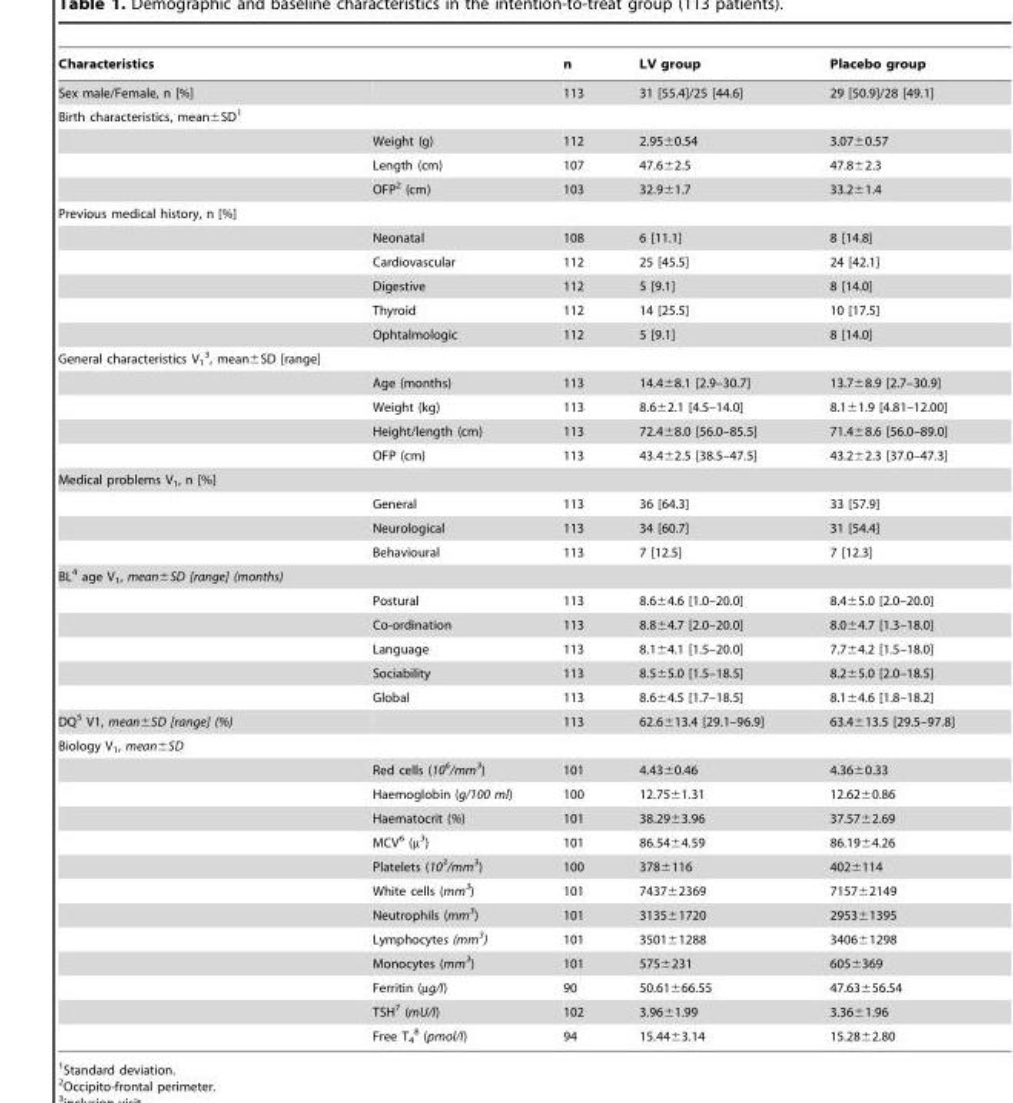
<table><thead><tr><td>Characteristics</td><td></td><td>n</td><td>LV group</td><td>Placebo group</td></tr></thead><tbody><tr><td>Sex male/Female, n [%]</td><td></td><td>113</td><td>31 [55.4]/25 [44.6]</td><td>29 [50.9]/28 [49.1]</td></tr><tr><td colspan="5">Birth characteristics, mean±SD<sup>1</sup></td></tr><tr><td></td><td>Weight (g)</td><td>112</td><td>2.95±0.54</td><td>3.07±0.57</td></tr><tr><td></td><td>Length (cm)</td><td>107</td><td>47.6±2.5</td><td>47.8±2.3</td></tr><tr><td></td><td>OFP<sup>2</sup> (cm)</td><td>103</td><td>32.9±1.7</td><td>33.2±1.4</td></tr><tr><td colspan="5">Previous medical history, n [%]</td></tr><tr><td></td><td>Neonatal</td><td>108</td><td>6 [11.1]</td><td>8 [14.8]</td></tr><tr><td></td><td>Cardiovascular</td><td>112</td><td>25 [45.5]</td><td>24 [42.1]</td></tr><tr><td></td><td>Digestive</td><td>112</td><td>5 [9.1]</td><td>8 [14.0]</td></tr><tr><td></td><td>Thyroid</td><td>112</td><td>14 [25.5]</td><td>10 [17.5]</td></tr><tr><td></td><td>Ophtalmologic</td><td>112</td><td>5 [9.1]</td><td>8 [14.0]</td></tr><tr><td colspan="5">General characteristics V<sub>1</sub> 3, mean±SD [range]</td></tr><tr><td></td><td>Age (months)</td><td>113</td><td>14.4±8.1 [2.9–30.7]</td><td>13.7±8.9 [2.7–30.9]</td></tr><tr><td></td><td>Weight (kg)</td><td>113</td><td>8.6±2.1 [4.5–14.0]</td><td>8.1±1.9 [4.81–12.00]</td></tr><tr><td></td><td>Height/length (cm)</td><td>113</td><td>72.4±8.0 [56.0–85.5]</td><td>71.4±8.6 [56.0–89.0]</td></tr><tr><td></td><td>OFP (cm)</td><td>113</td><td>43.4±2.5 [38.5–47.5]</td><td>43.2±2.3 [37.0–47.3]</td></tr><tr><td colspan="5">Medical problems V<sub>1</sub>, n [%]</td></tr><tr><td></td><td>General</td><td>113</td><td>36 [64.3]</td><td>33 [57.9]</td></tr><tr><td></td><td>Neurological</td><td>113</td><td>34 [60.7]</td><td>31 [54.4]</td></tr><tr><td></td><td>Behavioural</td><td>113</td><td>7 [12.5]</td><td>7 [12.3]</td></tr><tr><td colspan="5">BL<sup>4</sup> age V<sub>1</sub>, mean±SD [range] (months)</td></tr><tr><td></td><td>Postural</td><td>113</td><td>8.6±4.6 [1.0–20.0]</td><td>8.4±5.0 [2.0–20.0]</td></tr><tr><td></td><td>Co-ordination</td><td>113</td><td>8.8±4.7 [2.0–20.0]</td><td>8.0±4.7 [1.3–18.0]</td></tr><tr><td></td><td>Language</td><td>113</td><td>8.1±4.1 [1.5–20.0]</td><td>7.7±4.2 [1.5–18.0]</td></tr><tr><td></td><td>Sociability</td><td>113</td><td>8.5±5.0 [1.5–18.5]</td><td>8.2±5.0 [2.0–18.5]</td></tr><tr><td></td><td>Global</td><td>113</td><td>8.6±4.5 [1.7–18.5]</td><td>8.1±4.6 [1.8–18.2]</td></tr><tr><td>DQ<sup>5</sup> V1, mean±SD [range] (%)</td><td></td><td>113</td><td>62.6±13.4 [29.1–96.9]</td><td>63.4±13.5 [29.5–97.8]</td></tr><tr><td colspan="5">Biology V<sub>1</sub>, mean±SD</td></tr><tr><td></td><td>Red cells (106/mm3)</td><td>101</td><td>4.43±0.46</td><td>4.36±0.33</td></tr><tr><td></td><td>Haemoglobin (g/100 ml)</td><td>100</td><td>12.75±1.31</td><td>12.62±0.86</td></tr><tr><td></td><td>Haematocrit (%)</td><td>101</td><td>38.29±3.96</td><td>37.57±2.69</td></tr><tr><td></td><td>MCV<sup>6</sup> (µ3)</td><td>101</td><td>86.54±4.59</td><td>86.19±4.26</td></tr><tr><td></td><td>Platelets (103/mm3)</td><td>100</td><td>378±116</td><td>402±114</td></tr><tr><td></td><td>White cells (mm3)</td><td>101</td><td>7437±2369</td><td>7157±2149</td></tr><tr><td></td><td>Neutrophils (mm3)</td><td>101</td><td>3135±1720</td><td>2953±1395</td></tr><tr><td></td><td>Lymphocytes (mm3)</td><td>101</td><td>3501±1288</td><td>3406±1298</td></tr><tr><td></td><td>Monocytes (mm3)</td><td>101</td><td>575±231</td><td>605±369</td></tr><tr><td></td><td>Ferritin (µg/l)</td><td>90</td><td>50.61±66.55</td><td>47.63±56.54</td></tr><tr><td></td><td>TSH<sup>7</sup> (mU/l)</td><td>102</td><td>3.96±1.99</td><td>3.36±1.96</td></tr><tr><td></td><td>Free T<sub>4</sub> 8 (pmol/l)</td><td>94</td><td>15.44±3.14</td><td>15.28±2.80</td></tr></tbody></table>